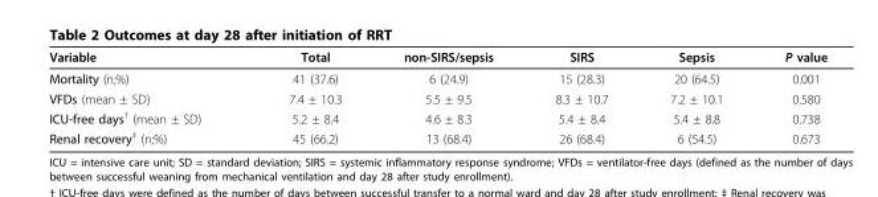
<table><thead><tr><td>Variable</td><td>Total</td><td>non-SIRS/sepsis</td><td>SIRS</td><td>Sepsis</td><td>P value</td></tr></thead><tbody><tr><td>Mortality (n;%)</td><td>41 (37.6)</td><td>6 (24.9)</td><td>15 (28.3)</td><td>20 (64.5)</td><td>0.001</td></tr><tr><td>VFDs (mean ± SD)</td><td>7.4 ± 10.3</td><td>5.5 ± 9.5</td><td>8.3 ± 10.7</td><td>7.2 ± 10.1</td><td>0.580</td></tr><tr><td>ICU-free days<sup>†</sup> (mean ± SD)</td><td>5.2 ± 8.4</td><td>4.6 ± 8.3</td><td>5.4 ± 8.4</td><td>5.4 ± 8.8</td><td>0.738</td></tr><tr><td>Renal recovery<sup>‡</sup> (n;%)</td><td>45 (66.2)</td><td>13 (68.4)</td><td>26 (68.4)</td><td>6 (54.5)</td><td>0.673</td></tr></tbody></table>